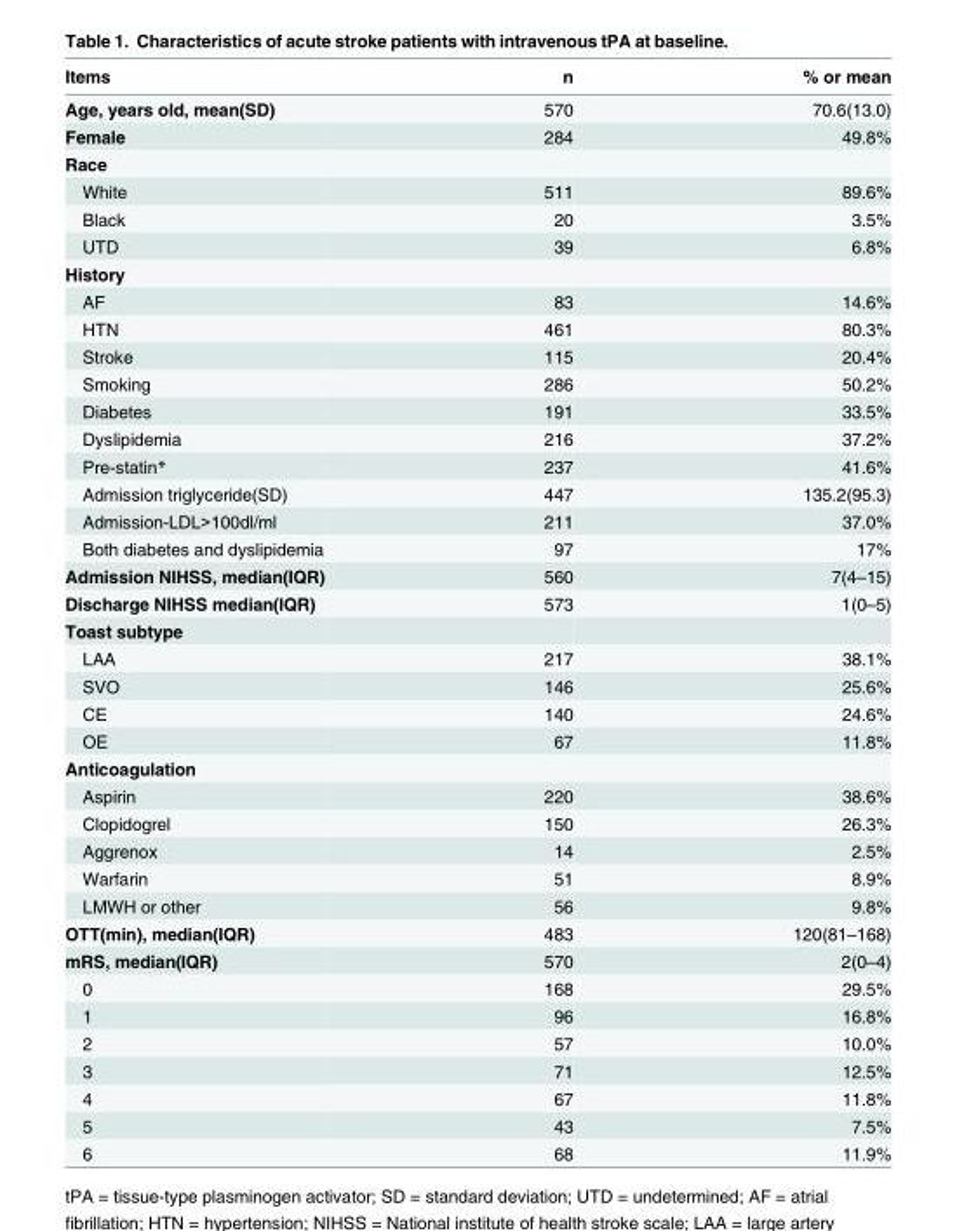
<table><thead><tr><td>Items</td><td>n</td><td>% or mean</td></tr></thead><tbody><tr><td>Age, years old, mean(SD)</td><td>570</td><td>70.6(13.0)</td></tr><tr><td>Female</td><td>284</td><td>49.8%</td></tr><tr><td colspan="3">Race</td></tr><tr><td>White</td><td>511</td><td>89.6%</td></tr><tr><td>Black</td><td>20</td><td>3.5%</td></tr><tr><td>UTD</td><td>39</td><td>6.8%</td></tr><tr><td colspan="3">History</td></tr><tr><td>AF</td><td>83</td><td>14.6%</td></tr><tr><td>HTN</td><td>461</td><td>80.3%</td></tr><tr><td>Stroke</td><td>115</td><td>20.4%</td></tr><tr><td>Smoking</td><td>286</td><td>50.2%</td></tr><tr><td>Diabetes</td><td>191</td><td>33.5%</td></tr><tr><td>Dyslipidemia</td><td>216</td><td>37.2%</td></tr><tr><td>Pre-statin*</td><td>237</td><td>41.6%</td></tr><tr><td>Admission triglyceride(SD)</td><td>447</td><td>135.2(95.3)</td></tr><tr><td>Admission-LDL&gt;100dl/ml</td><td>211</td><td>37.0%</td></tr><tr><td>Both diabetes and dyslipidemia</td><td>97</td><td>17%</td></tr><tr><td>Admission NIHSS, median(IQR)</td><td>560</td><td>7(4–15)</td></tr><tr><td>Discharge NIHSS median(IQR)</td><td>573</td><td>1(0–5)</td></tr><tr><td colspan="3">Toast subtype</td></tr><tr><td>LAA</td><td>217</td><td>38.1%</td></tr><tr><td>SVO</td><td>146</td><td>25.6%</td></tr><tr><td>CE</td><td>140</td><td>24.6%</td></tr><tr><td>OE</td><td>67</td><td>11.8%</td></tr><tr><td colspan="3">Anticoagulation</td></tr><tr><td>Aspirin</td><td>220</td><td>38.6%</td></tr><tr><td>Clopidogrel</td><td>150</td><td>26.3%</td></tr><tr><td>Aggrenox</td><td>14</td><td>2.5%</td></tr><tr><td>Warfarin</td><td>51</td><td>8.9%</td></tr><tr><td>LMWH or other</td><td>56</td><td>9.8%</td></tr><tr><td>OTT(min), median(IQR)</td><td>483</td><td>120(81–168)</td></tr><tr><td>mRS, median(IQR)</td><td>570</td><td>2(0–4)</td></tr><tr><td>0</td><td>168</td><td>29.5%</td></tr><tr><td>1</td><td>96</td><td>16.8%</td></tr><tr><td>2</td><td>57</td><td>10.0%</td></tr><tr><td>3</td><td>71</td><td>12.5%</td></tr><tr><td>4</td><td>67</td><td>11.8%</td></tr><tr><td>5</td><td>43</td><td>7.5%</td></tr><tr><td>6</td><td>68</td><td>11.9%</td></tr></tbody></table>